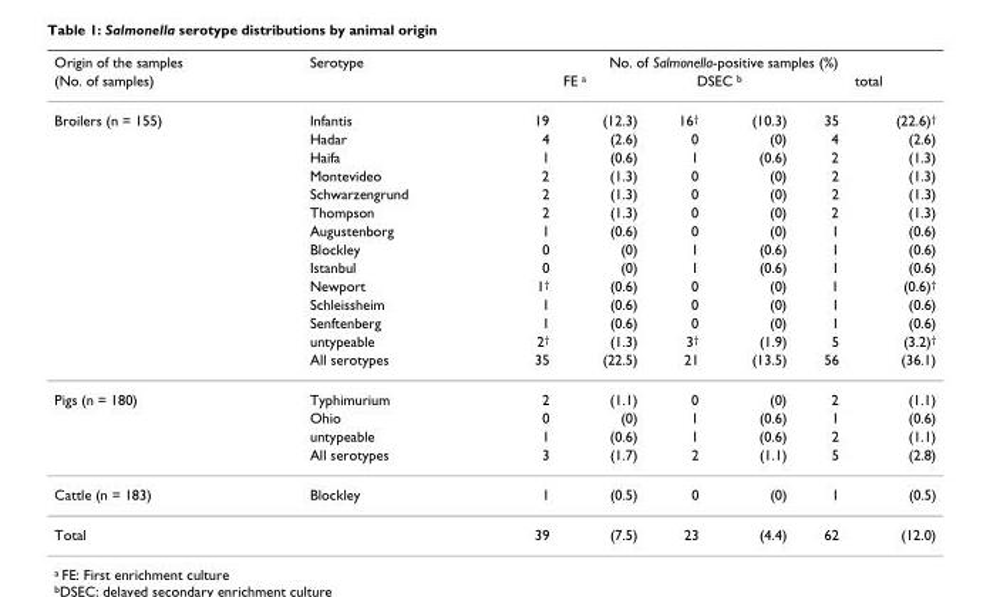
<table><thead><tr><td rowspan="3">Origin of the samples (No. of samples) Broilers (n = 155)</td><td rowspan="3">Serotype Infantis</td><td colspan="6">No. of Salmonella-positive samples (%)</td></tr><tr><td colspan="2">FE <sup>a</sup></td><td colspan="2">DSEC <sup>b</sup></td><td colspan="2">total</td></tr><tr><td>19</td><td>(12.3)</td><td>16<sup>†</sup></td><td>(10.3)</td><td>35</td><td>(22.6)<sup>†</sup></td></tr></thead><tbody><tr><td></td><td>Hadar</td><td>4</td><td>(2.6)</td><td>0</td><td>(0)</td><td>4</td><td>(2.6)</td></tr><tr><td></td><td>Haifa</td><td>1</td><td>(0.6)</td><td>1</td><td>(0.6)</td><td>2</td><td>(1.3)</td></tr><tr><td></td><td>Montevideo</td><td>2</td><td>(1.3)</td><td>0</td><td>(0)</td><td>2</td><td>(1.3)</td></tr><tr><td></td><td>Schwarzengrund</td><td>2</td><td>(1.3)</td><td>0</td><td>(0)</td><td>2</td><td>(1.3)</td></tr><tr><td></td><td>Thompson</td><td>2</td><td>(1.3)</td><td>0</td><td>(0)</td><td>2</td><td>(1.3)</td></tr><tr><td></td><td>Augustenborg</td><td>1</td><td>(0.6)</td><td>0</td><td>(0)</td><td>1</td><td>(0.6)</td></tr><tr><td></td><td>Blockley</td><td>0</td><td>(0)</td><td>1</td><td>(0.6)</td><td>1</td><td>(0.6)</td></tr><tr><td></td><td>Istanbul</td><td>0</td><td>(0)</td><td>1</td><td>(0.6)</td><td>1</td><td>(0.6)</td></tr><tr><td></td><td>Newport</td><td>1<sup>†</sup></td><td>(0.6)</td><td>0</td><td>(0)</td><td>1</td><td>(0.6)<sup>†</sup></td></tr><tr><td></td><td>Schleissheim</td><td>1</td><td>(0.6)</td><td>0</td><td>(0)</td><td>1</td><td>(0.6)</td></tr><tr><td></td><td>Senftenberg</td><td>1</td><td>(0.6)</td><td>0</td><td>(0)</td><td>1</td><td>(0.6)</td></tr><tr><td></td><td>untypeable</td><td>2<sup>†</sup></td><td>(1.3)</td><td>3<sup>†</sup></td><td>(1.9)</td><td>5</td><td>(3.2)<sup>†</sup></td></tr><tr><td></td><td>All serotypes</td><td>35</td><td>(22.5)</td><td>21</td><td>(13.5)</td><td>56</td><td>(36.1)</td></tr><tr><td rowspan="4">Pigs (n = 180)</td><td>Typhimurium</td><td>2</td><td>(1.1)</td><td>0</td><td>(0)</td><td>2</td><td>(1.1)</td></tr><tr><td>Ohio</td><td>0</td><td>(0)</td><td>1</td><td>(0.6)</td><td>1</td><td>(0.6)</td></tr><tr><td>untypeable</td><td>1</td><td>(0.6)</td><td>1</td><td>(0.6)</td><td>2</td><td>(1.1)</td></tr><tr><td>All serotypes</td><td>3</td><td>(1.7)</td><td>2</td><td>(1.1)</td><td>5</td><td>(2.8)</td></tr><tr><td>Cattle (n = 183)</td><td>Blockley</td><td>1</td><td>(0.5)</td><td>0</td><td>(0)</td><td>1</td><td>(0.5)</td></tr><tr><td>Total</td><td></td><td>39</td><td>(7.5)</td><td>23</td><td>(4.4)</td><td>62</td><td>(12.0)</td></tr></tbody></table>